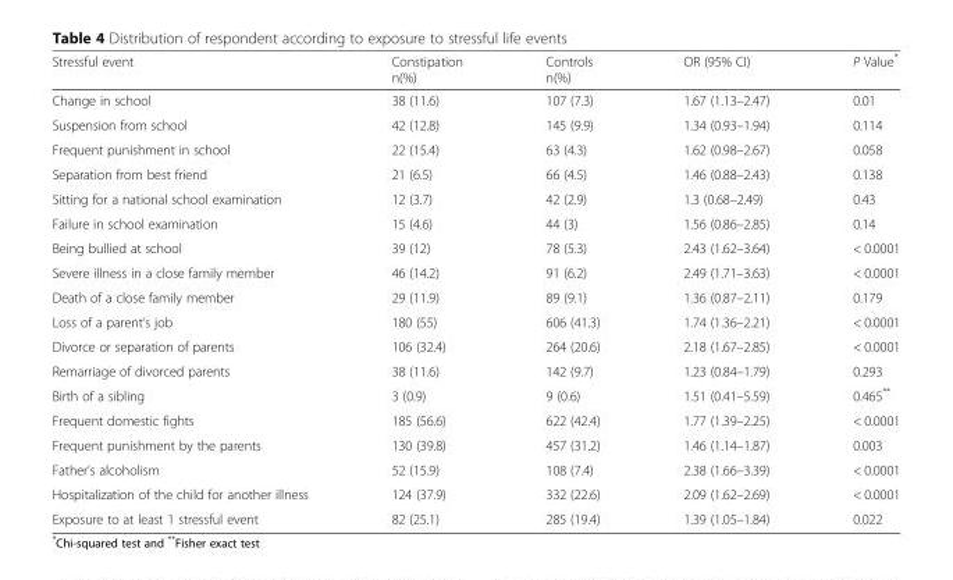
<table><thead><tr><td>Stressful event</td><td>Constipation n(%)</td><td>Controls n(%)</td><td>OR (95% CI)</td><td>P Value*</td></tr></thead><tbody><tr><td>Change in school</td><td>38 (11.6)</td><td>107 (7.3)</td><td>1.67 (1.13–2.47)</td><td>0.01</td></tr><tr><td>Suspension from school</td><td>42 (12.8)</td><td>145 (9.9)</td><td>1.34 (0.93–1.94)</td><td>0.114</td></tr><tr><td>Frequent punishment in school</td><td>22 (15.4)</td><td>63 (4.3)</td><td>1.62 (0.98–2.67)</td><td>0.058</td></tr><tr><td>Separation from best friend</td><td>21 (6.5)</td><td>66 (4.5)</td><td>1.46 (0.88–2.43)</td><td>0.138</td></tr><tr><td>Sitting for a national school examination</td><td>12 (3.7)</td><td>42 (2.9)</td><td>1.3 (0.68–2.49)</td><td>0.43</td></tr><tr><td>Failure in school examination</td><td>15 (4.6)</td><td>44 (3)</td><td>1.56 (0.86–2.85)</td><td>0.14</td></tr><tr><td>Being bullied at school</td><td>39 (12)</td><td>78 (5.3)</td><td>2.43 (1.62–3.64)</td><td>&lt; 0.0001</td></tr><tr><td>Severe illness in a close family member</td><td>46 (14.2)</td><td>91 (6.2)</td><td>2.49 (1.71–3.63)</td><td>&lt; 0.0001</td></tr><tr><td>Death of a close family member</td><td>29 (11.9)</td><td>89 (9.1)</td><td>1.36 (0.87–2.11)</td><td>0.179</td></tr><tr><td>Loss of a parent’s job</td><td>180 (55)</td><td>606 (41.3)</td><td>1.74 (1.36–2.21)</td><td>&lt; 0.0001</td></tr><tr><td>Divorce or separation of parents</td><td>106 (32.4)</td><td>264 (20.6)</td><td>2.18 (1.67–2.85)</td><td>&lt; 0.0001</td></tr><tr><td>Remarriage of divorced parents</td><td>38 (11.6)</td><td>142 (9.7)</td><td>1.23 (0.84–1.79)</td><td>0.293</td></tr><tr><td>Birth of a sibling</td><td>3 (0.9)</td><td>9 (0.6)</td><td>1.51 (0.41–5.59)</td><td>0.465**</td></tr><tr><td>Frequent domestic fights</td><td>185 (56.6)</td><td>622 (42.4)</td><td>1.77 (1.39–2.25)</td><td>&lt; 0.0001</td></tr><tr><td>Frequent punishment by the parents</td><td>130 (39.8)</td><td>457 (31.2)</td><td>1.46 (1.14–1.87)</td><td>0.003</td></tr><tr><td>Father’s alcoholism</td><td>52 (15.9)</td><td>108 (7.4)</td><td>2.38 (1.66–3.39)</td><td>&lt; 0.0001</td></tr><tr><td>Hospitalization of the child for another illness</td><td>124 (37.9)</td><td>332 (22.6)</td><td>2.09 (1.62–2.69)</td><td>&lt; 0.0001</td></tr><tr><td>Exposure to at least 1 stressful event</td><td>82 (25.1)</td><td>285 (19.4)</td><td>1.39 (1.05–1.84)</td><td>0.022</td></tr></tbody></table>